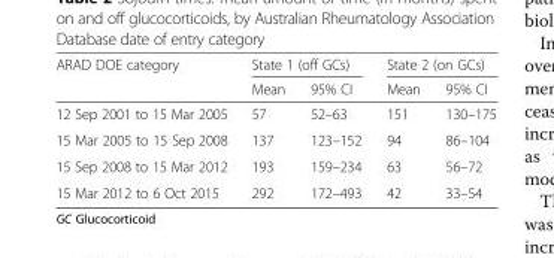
<table><thead><tr><td rowspan="2">ARAD DOE category</td><td colspan="2">State 1 (off GCs)</td><td colspan="2">State 2 (on GCs)</td></tr><tr><td>Mean</td><td>95% CI</td><td>Mean</td><td>95% CI</td></tr></thead><tbody><tr><td>12 Sep 2001 to 15 Mar 2005</td><td>57</td><td>52–63</td><td>151</td><td>130–175</td></tr><tr><td>15 Mar 2005 to 15 Sep 2008</td><td>137</td><td>123–152</td><td>94</td><td>86–104</td></tr><tr><td>15 Sep 2008 to 15 Mar 2012</td><td>193</td><td>159–234</td><td>63</td><td>56–72</td></tr><tr><td>15 Mar 2012 to 6 Oct 2015</td><td>292</td><td>172–493</td><td>42</td><td>33–54</td></tr></tbody></table>